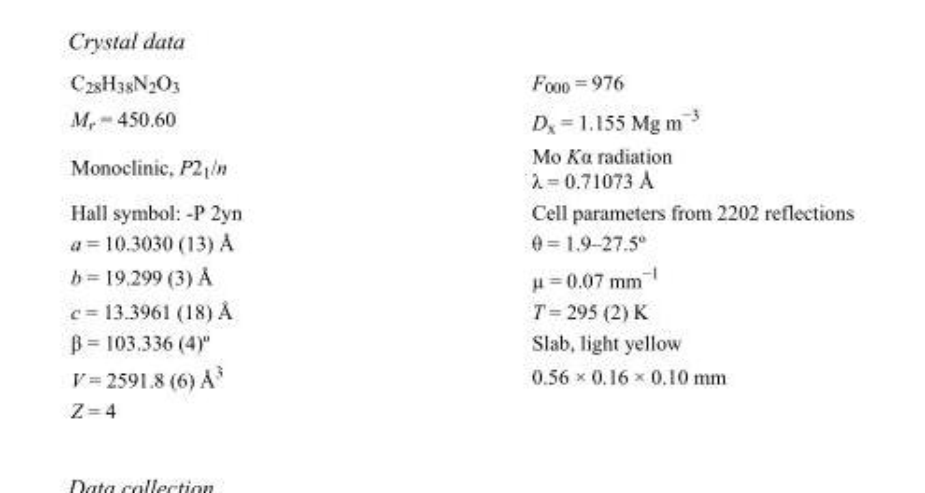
<table><tbody><tr><td>C<sub>28</sub>H<sub>38</sub>N<sub>2</sub>O<sub>3</sub></td><td>F000 = 976</td></tr><tr><td>M<sub>r</sub> = 450.60</td><td>D<sub>x</sub> = 1.155 Mg m<sup>−3</sup></td></tr><tr><td>Monoclinic, P2<sub>1</sub>/n</td><td>Mo Kα radiation λ = 0.71073 Å</td></tr><tr><td>Hall symbol: -P 2yn</td><td>Cell parameters from 2202 reflections</td></tr><tr><td>a = 10.3030 (13) Å</td><td>θ = 1.9–27.5º</td></tr><tr><td>b = 19.299 (3) Å</td><td>µ = 0.07 mm<sup>−1</sup></td></tr><tr><td>c = 13.3961 (18) Å</td><td>T = 295 (2) K</td></tr><tr><td>β = 103.336 (4)º</td><td>Slab, light yellow</td></tr><tr><td>V = 2591.8 (6) Å<sup>3</sup></td><td>0.56 × 0.16 × 0.10 mm</td></tr><tr><td>Z = 4</td><td></td></tr></tbody></table>